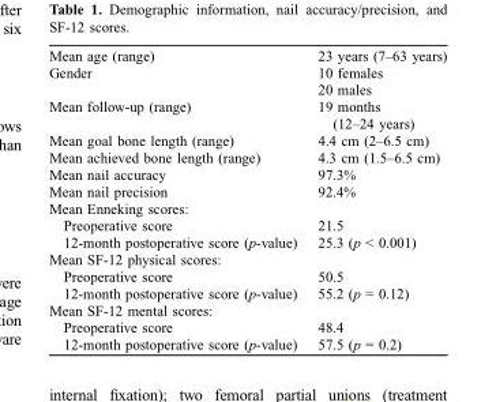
<table><tbody><tr><td>Mean age (range)</td><td>23 years (7–63 years)</td></tr><tr><td rowspan="2">Gender</td><td>10 females</td></tr><tr><td>20 males</td></tr><tr><td>Mean follow-up (range)</td><td>19 months (12–24 years)</td></tr><tr><td>Mean goal bone length (range)</td><td>4.4 cm (2–6.5 cm)</td></tr><tr><td>Mean achieved bone length (range)</td><td>4.3 cm (1.5–6.5 cm)</td></tr><tr><td>Mean nail accuracy</td><td>97.3%</td></tr><tr><td>Mean nail precision</td><td>92.4%</td></tr><tr><td colspan="2">Mean Enneking scores:</td></tr><tr><td>Preoperative score</td><td>21.5</td></tr><tr><td>12-month postoperative score (p-value)</td><td>25.3 (p &lt; 0.001)</td></tr><tr><td colspan="2">Mean SF-12 physical scores:</td></tr><tr><td>Preoperative score</td><td>50.5</td></tr><tr><td>12-month postoperative score (p-value)</td><td>55.2 (p = 0.12)</td></tr><tr><td colspan="2">Mean SF-12 mental scores:</td></tr><tr><td>Preoperative score</td><td>48.4</td></tr><tr><td>12-month postoperative score (p-value)</td><td>57.5 (p = 0.2)</td></tr></tbody></table>